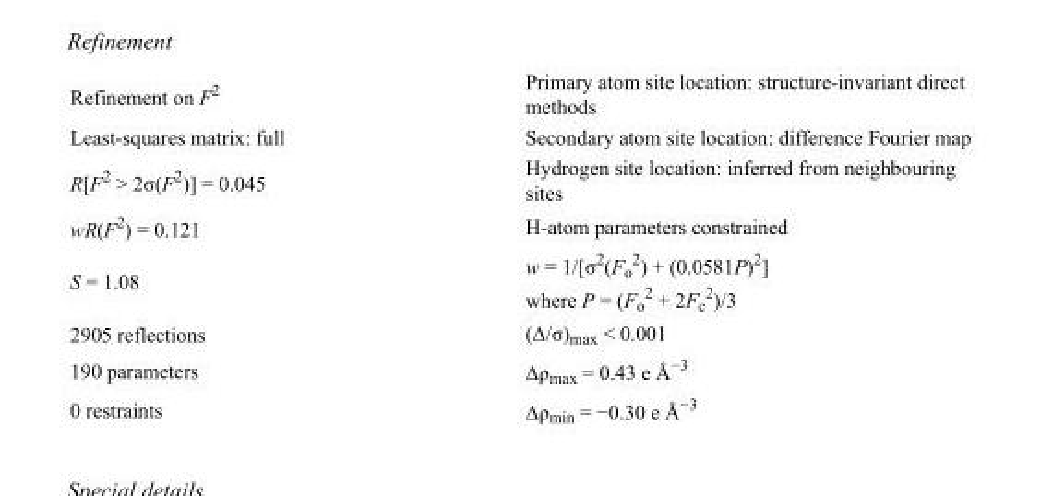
<table><tbody><tr><td>Refinement on F<sup>2</sup></td><td>Primary atom site location: structure-invariant direct methods</td></tr><tr><td>Least-squares matrix: full</td><td>Secondary atom site location: difference Fourier map</td></tr><tr><td>R[F<sup>2</sup> &gt; 2σ(F<sup>2</sup>)] = 0.045</td><td>Hydrogen site location: inferred from neighbouring sites</td></tr><tr><td>wR(F<sup>2</sup>) = 0.121</td><td>H-atom parameters constrained</td></tr><tr><td>S = 1.08</td><td>w = 1/[σ<sup>2</sup>(F<sub>o</sub> <sup>2</sup>) + (0.0581P)<sup>2</sup>] where P = (F<sub>o</sub> <sup>2</sup> + 2F<sub>c</sub> <sup>2</sup>)/3</td></tr><tr><td>2905 reflections</td><td>(Δ/σ)<sub>max</sub> &lt; 0.001</td></tr><tr><td>190 parameters</td><td>Δρ<sub>max</sub> = 0.43 e Å<sup>−3</sup></td></tr><tr><td>0 restraints</td><td>Δρ<sub>min</sub> = −0.30 e Å<sup>−3</sup></td></tr></tbody></table>